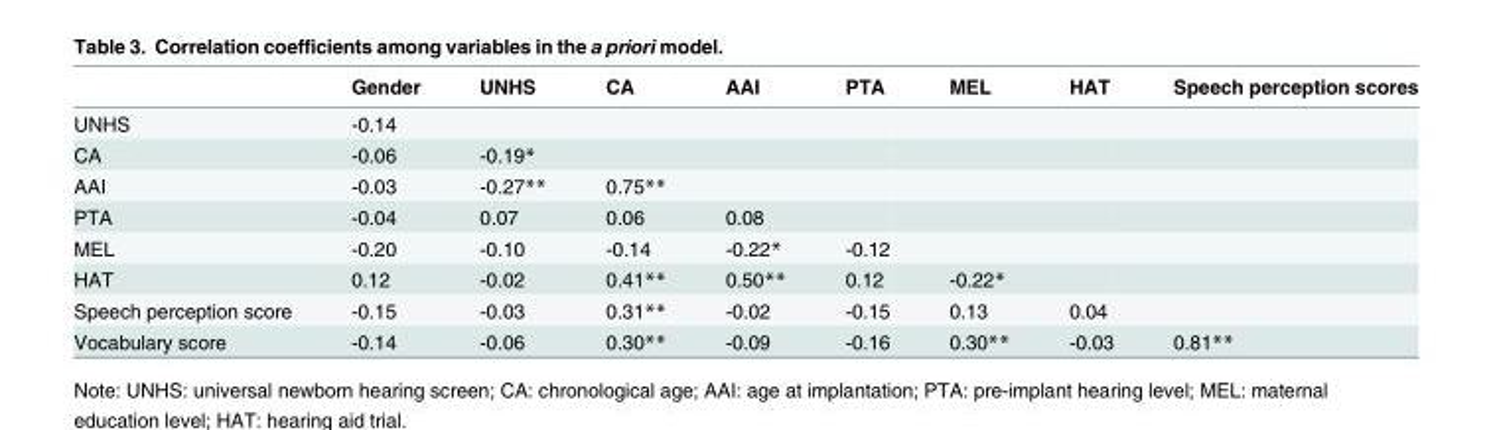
<table><thead><tr><td></td><td>Gender</td><td>UNHS</td><td>CA</td><td>AAI</td><td>PTA</td><td>MEL</td><td>HAT</td><td>Speech perception scores</td></tr></thead><tbody><tr><td>UNHS</td><td>-0.14</td><td></td><td></td><td></td><td></td><td></td><td></td><td></td></tr><tr><td>CA</td><td>-0.06</td><td>-0.19*</td><td></td><td></td><td></td><td></td><td></td><td></td></tr><tr><td>AAI</td><td>-0.03</td><td>-0.27**</td><td>0.75**</td><td></td><td></td><td></td><td></td><td></td></tr><tr><td>PTA</td><td>-0.04</td><td>0.07</td><td>0.06</td><td>0.08</td><td></td><td></td><td></td><td></td></tr><tr><td>MEL</td><td>-0.20</td><td>-0.10</td><td>-0.14</td><td>-0.22*</td><td>-0.12</td><td></td><td></td><td></td></tr><tr><td>HAT</td><td>0.12</td><td>-0.02</td><td>0.41**</td><td>0.50**</td><td>0.12</td><td>-0.22*</td><td></td><td></td></tr><tr><td>Speech perception score</td><td>-0.15</td><td>-0.03</td><td>0.31**</td><td>-0.02</td><td>-0.15</td><td>0.13</td><td>0.04</td><td></td></tr><tr><td>Vocabulary score</td><td>-0.14</td><td>-0.06</td><td>0.30**</td><td>-0.09</td><td>-0.16</td><td>0.30**</td><td>-0.03</td><td>0.81**</td></tr></tbody></table>